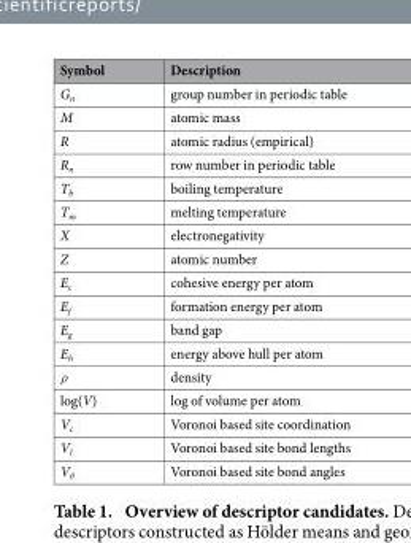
<table><thead><tr><td>Symbol</td><td>Description</td></tr></thead><tbody><tr><td>G<sub>n</sub></td><td>group number in periodic table</td></tr><tr><td>M</td><td>atomic mass</td></tr><tr><td>R</td><td>atomic radius (empirical)</td></tr><tr><td>R<sub>n</sub></td><td>row number in periodic table</td></tr><tr><td>T<sub>b</sub></td><td>boiling temperature</td></tr><tr><td>T<sub>m</sub></td><td>melting temperature</td></tr><tr><td>X</td><td>electronegativity</td></tr><tr><td>Z</td><td>atomic number</td></tr><tr><td>E<sub>c</sub></td><td>cohesive energy per atom</td></tr><tr><td>E<sub>f</sub></td><td>formation energy per atom</td></tr><tr><td>E<sub>g</sub></td><td>band gap</td></tr><tr><td>E<sub>h</sub></td><td>energy above hull per atom</td></tr><tr><td>ρ</td><td>density</td></tr><tr><td>log(V)</td><td>log of volume per atom</td></tr><tr><td>V<sub>c</sub></td><td>Voronoi based site coordination</td></tr><tr><td>V<sub>l</sub></td><td>Voronoi based site bond lengths</td></tr><tr><td>V<sub>θ</sub></td><td>Voronoi based site bond angles</td></tr></tbody></table>